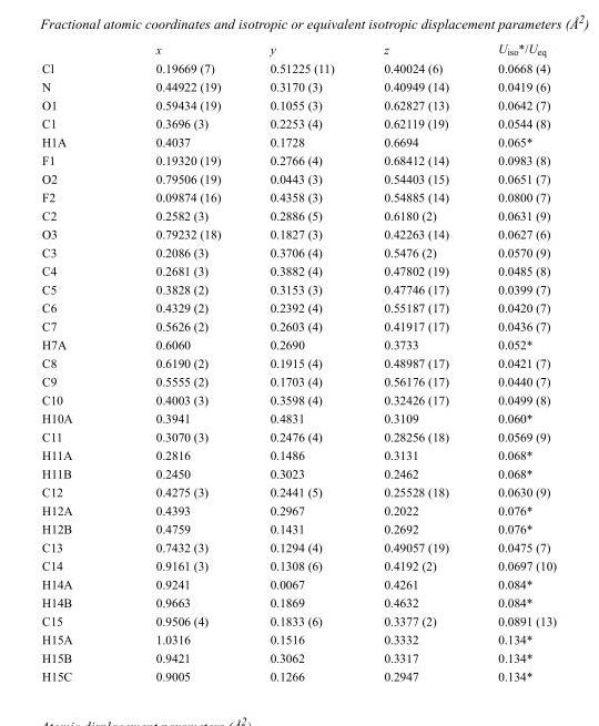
<table><thead><tr><td></td><td>x</td><td>y</td><td>z</td><td>U<sub>iso</sub>*/U<sub>eq</sub></td></tr></thead><tbody><tr><td>Cl</td><td>0.19669 (7)</td><td>0.51225 (11)</td><td>0.40024 (6)</td><td>0.0668 (4)</td></tr><tr><td>N</td><td>0.44922 (19)</td><td>0.3170 (3)</td><td>0.40949 (14)</td><td>0.0419 (6)</td></tr><tr><td>O1</td><td>0.59434 (19)</td><td>0.1055 (3)</td><td>0.62827 (13)</td><td>0.0642 (7)</td></tr><tr><td>C1</td><td>0.3696 (3)</td><td>0.2253 (4)</td><td>0.62119 (19)</td><td>0.0544 (8)</td></tr><tr><td>H1A</td><td>0.4037</td><td>0.1728</td><td>0.6694</td><td>0.065*</td></tr><tr><td>F1</td><td>0.19320 (19)</td><td>0.2766 (4)</td><td>0.68412 (14)</td><td>0.0983 (8)</td></tr><tr><td>O2</td><td>0.79506 (19)</td><td>0.0443 (3)</td><td>0.54403 (15)</td><td>0.0651 (7)</td></tr><tr><td>F2</td><td>0.09874 (16)</td><td>0.4358 (3)</td><td>0.54885 (14)</td><td>0.0800 (7)</td></tr><tr><td>C2</td><td>0.2582 (3)</td><td>0.2886 (5)</td><td>0.6180 (2)</td><td>0.0631 (9)</td></tr><tr><td>O3</td><td>0.79232 (18)</td><td>0.1827 (3)</td><td>0.42263 (14)</td><td>0.0627 (6)</td></tr><tr><td>C3</td><td>0.2086 (3)</td><td>0.3706 (4)</td><td>0.5476 (2)</td><td>0.0570 (9)</td></tr><tr><td>C4</td><td>0.2681 (3)</td><td>0.3882 (4)</td><td>0.47802 (19)</td><td>0.0485 (8)</td></tr><tr><td>C5</td><td>0.3828 (2)</td><td>0.3153 (3)</td><td>0.47746 (17)</td><td>0.0399 (7)</td></tr><tr><td>C6</td><td>0.4329 (2)</td><td>0.2392 (4)</td><td>0.55187 (17)</td><td>0.0420 (7)</td></tr><tr><td>C7</td><td>0.5626 (2)</td><td>0.2603 (4)</td><td>0.41917 (17)</td><td>0.0436 (7)</td></tr><tr><td>H7A</td><td>0.6060</td><td>0.2690</td><td>0.3733</td><td>0.052*</td></tr><tr><td>C8</td><td>0.6190 (2)</td><td>0.1915 (4)</td><td>0.48987 (17)</td><td>0.0421 (7)</td></tr><tr><td>C9</td><td>0.5555 (2)</td><td>0.1703 (4)</td><td>0.56176 (17)</td><td>0.0440 (7)</td></tr><tr><td>C10</td><td>0.4003 (3)</td><td>0.3598 (4)</td><td>0.32426 (17)</td><td>0.0499 (8)</td></tr><tr><td>H10A</td><td>0.3941</td><td>0.4831</td><td>0.3109</td><td>0.060*</td></tr><tr><td>C11</td><td>0.3070 (3)</td><td>0.2476 (4)</td><td>0.28256 (18)</td><td>0.0569 (9)</td></tr><tr><td>H11A</td><td>0.2816</td><td>0.1486</td><td>0.3131</td><td>0.068*</td></tr><tr><td>H11B</td><td>0.2450</td><td>0.3023</td><td>0.2462</td><td>0.068*</td></tr><tr><td>C12</td><td>0.4275 (3)</td><td>0.2441 (5)</td><td>0.25528 (18)</td><td>0.0630 (9)</td></tr><tr><td>H12A</td><td>0.4393</td><td>0.2967</td><td>0.2022</td><td>0.076*</td></tr><tr><td>H12B</td><td>0.4759</td><td>0.1431</td><td>0.2692</td><td>0.076*</td></tr><tr><td>C13</td><td>0.7432 (3)</td><td>0.1294 (4)</td><td>0.49057 (19)</td><td>0.0475 (7)</td></tr><tr><td>C14</td><td>0.9161 (3)</td><td>0.1308 (6)</td><td>0.4192 (2)</td><td>0.0697 (10)</td></tr><tr><td>H14A</td><td>0.9241</td><td>0.0067</td><td>0.4261</td><td>0.084*</td></tr><tr><td>H14B</td><td>0.9663</td><td>0.1869</td><td>0.4632</td><td>0.084*</td></tr><tr><td>C15</td><td>0.9506 (4)</td><td>0.1833 (6)</td><td>0.3377 (2)</td><td>0.0891 (13)</td></tr><tr><td>H15A</td><td>1.0316</td><td>0.1516</td><td>0.3332</td><td>0.134*</td></tr><tr><td>H15B</td><td>0.9421</td><td>0.3062</td><td>0.3317</td><td>0.134*</td></tr><tr><td>H15C</td><td>0.9005</td><td>0.1266</td><td>0.2947</td><td>0.134*</td></tr></tbody></table>